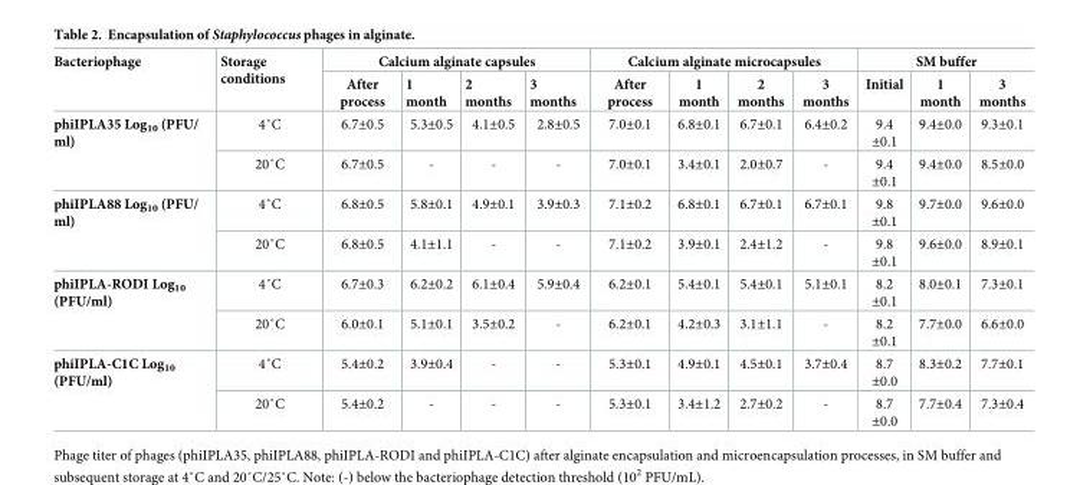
<table><thead><tr><td rowspan="2">Bacteriophage</td><td rowspan="2">Storage conditions</td><td colspan="4">Calcium alginate capsules</td><td colspan="4">Calcium alginate microcapsules</td><td colspan="3">SM buffer</td></tr><tr><td>After process</td><td>1 month</td><td>2 months</td><td>3 months</td><td>After process</td><td>1 month</td><td>2 months</td><td>3 months</td><td>Initial</td><td>1 month</td><td>3 months</td></tr></thead><tbody><tr><td rowspan="2">phiIPLA35 Log<sub>10</sub> (PFU/ ml)</td><td>4˚C</td><td>6.7±0.5</td><td>5.3±0.5</td><td>4.1±0.5</td><td>2.8±0.5</td><td>7.0±0.1</td><td>6.8±0.1</td><td>6.7±0.1</td><td>6.4±0.2</td><td>9.4 ±0.1</td><td>9.4±0.0</td><td>9.3±0.1</td></tr><tr><td>20˚C</td><td>6.7±0.5</td><td>-</td><td>-</td><td>-</td><td>7.0±0.1</td><td>3.4±0.1</td><td>2.0±0.7</td><td>-</td><td>9.4 ±0.1</td><td>9.4±0.0</td><td>8.5±0.0</td></tr><tr><td rowspan="2">phiIPLA88 Log<sub>10</sub> (PFU/ ml)</td><td>4˚C</td><td>6.8±0.5</td><td>5.8±0.1</td><td>4.9±0.1</td><td>3.9±0.3</td><td>7.1±0.2</td><td>6.8±0.1</td><td>6.7±0.1</td><td>6.7±0.1</td><td>9.8 ±0.1</td><td>9.7±0.0</td><td>9.6±0.0</td></tr><tr><td>20˚C</td><td>6.8±0.5</td><td>4.1±1.1</td><td>-</td><td>-</td><td>7.1±0.2</td><td>3.9±0.1</td><td>2.4±1.2</td><td>-</td><td>9.8 ±0.1</td><td>9.6±0.0</td><td>8.9±0.1</td></tr><tr><td rowspan="2">phiIPLA-RODI Log<sub>10</sub> (PFU/ml)</td><td>4˚C</td><td>6.7±0.3</td><td>6.2±0.2</td><td>6.1±0.4</td><td>5.9±0.4</td><td>6.2±0.1</td><td>5.4±0.1</td><td>5.4±0.1</td><td>5.1±0.1</td><td>8.2 ±0.1</td><td>8.0±0.1</td><td>7.3±0.1</td></tr><tr><td>20˚C</td><td>6.0±0.1</td><td>5.1±0.1</td><td>3.5±0.2</td><td>-</td><td>6.2±0.1</td><td>4.2±0.3</td><td>3.1±1.1</td><td>-</td><td>8.2 ±0.1</td><td>7.7±0.0</td><td>6.6±0.0</td></tr><tr><td rowspan="2">phiIPLA-C1C Log<sub>10</sub> (PFU/ml)</td><td>4˚C</td><td>5.4±0.2</td><td>3.9±0.4</td><td>-</td><td>-</td><td>5.3±0.1</td><td>4.9±0.1</td><td>4.5±0.1</td><td>3.7±0.4</td><td>8.7 ±0.0</td><td>8.3±0.2</td><td>7.7±0.1</td></tr><tr><td>20˚C</td><td>5.4±0.2</td><td>-</td><td>-</td><td>-</td><td>5.3±0.1</td><td>3.4±1.2</td><td>2.7±0.2</td><td>-</td><td>8.7 ±0.0</td><td>7.7±0.4</td><td>7.3±0.4</td></tr></tbody></table>